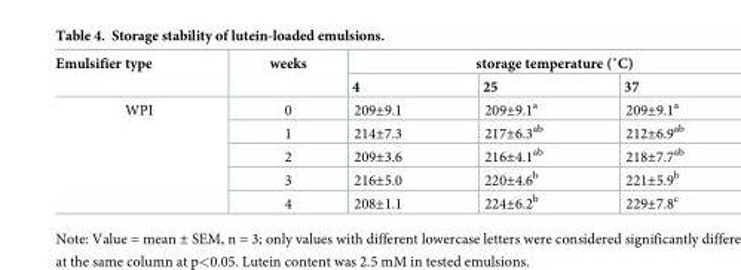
<table><thead><tr><td rowspan="2">Emulsifier type</td><td rowspan="2">weeks</td><td colspan="3">storage temperature (˚C)</td></tr><tr><td>4</td><td>25</td><td>37</td></tr></thead><tbody><tr><td rowspan="5">WPI</td><td>0</td><td>209±9.1</td><td>209±9.1<sup>a</sup></td><td>209±9.1<sup>a</sup></td></tr><tr><td>1</td><td>214±7.3</td><td>217±6.3<sup>ab</sup></td><td>212±6.9<sup>ab</sup></td></tr><tr><td>2</td><td>209±3.6</td><td>216±4.1<sup>ab</sup></td><td>218±7.7<sup>ab</sup></td></tr><tr><td>3</td><td>216±5.0</td><td>220±4.6<sup>b</sup></td><td>221±5.9<sup>b</sup></td></tr><tr><td>4</td><td>208±1.1</td><td>224±6.2<sup>b</sup></td><td>229±7.8<sup>c</sup></td></tr></tbody></table>